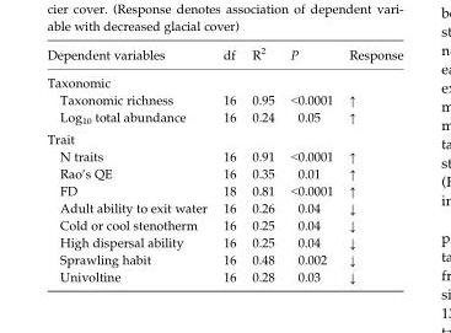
<table><thead><tr><td>Dependent variables</td><td>df</td><td>R<sup>2</sup></td><td>P</td><td>Response</td></tr></thead><tbody><tr><td colspan="5">Taxonomic</td></tr><tr><td>Taxonomic richness</td><td>16</td><td>0.95</td><td>&lt;0.0001</td><td>↑</td></tr><tr><td>Log<sub>10</sub> total abundance</td><td>16</td><td>0.24</td><td>0.05</td><td>↑</td></tr><tr><td colspan="5">Trait</td></tr><tr><td>N traits</td><td>16</td><td>0.91</td><td>&lt;0.0001</td><td>↑</td></tr><tr><td>Rao’s QE</td><td>16</td><td>0.35</td><td>0.01</td><td>↑</td></tr><tr><td>FD</td><td>18</td><td>0.81</td><td>&lt;0.0001</td><td>↑</td></tr><tr><td>Adult ability to exit water</td><td>16</td><td>0.26</td><td>0.04</td><td>↓</td></tr><tr><td>Cold or cool stenotherm</td><td>16</td><td>0.25</td><td>0.04</td><td>↓</td></tr><tr><td>High dispersal ability</td><td>16</td><td>0.25</td><td>0.04</td><td>↓</td></tr><tr><td>Sprawling habit</td><td>16</td><td>0.48</td><td>0.002</td><td>↓</td></tr><tr><td>Univoltine</td><td>16</td><td>0.28</td><td>0.03</td><td>↓</td></tr></tbody></table>